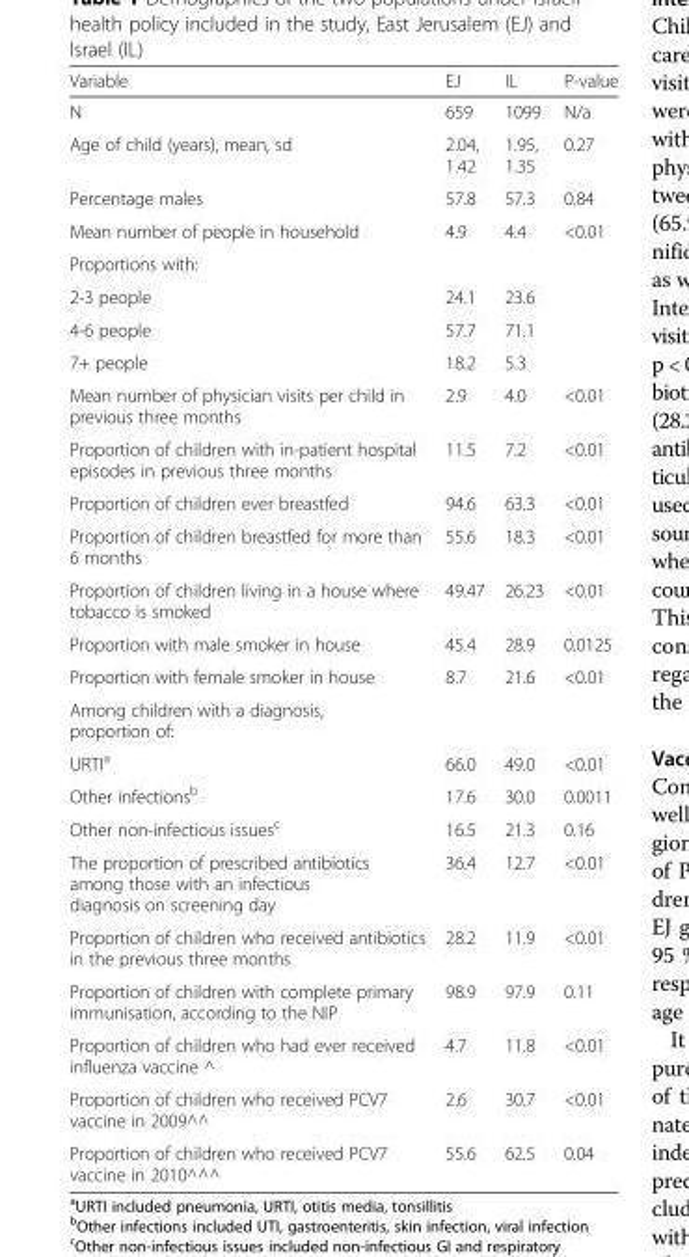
<table><thead><tr><td>Variable</td><td>EJ</td><td>IL</td><td>P-value</td></tr></thead><tbody><tr><td>N</td><td>659</td><td>1099</td><td>N/a</td></tr><tr><td>Age of child (years), mean, sd</td><td>2.04, 1.42</td><td>1.95, 1.35</td><td>0.27</td></tr><tr><td>Percentage males</td><td>57.8</td><td>57.3</td><td>0.84</td></tr><tr><td>Mean number of people in household</td><td>4.9</td><td>4.4</td><td>&lt;0.01</td></tr><tr><td colspan="4">Proportions with:</td></tr><tr><td>2-3 people</td><td>24.1</td><td>23.6</td><td></td></tr><tr><td>4-6 people</td><td>57.7</td><td>71.1</td><td></td></tr><tr><td>7+ people</td><td>18.2</td><td>5.3</td><td></td></tr><tr><td>Mean number of physician visits per child in previous three months</td><td>2.9</td><td>4.0</td><td>&lt;0.01</td></tr><tr><td>Proportion of children with in-patient hospital episodes in previous three months</td><td>11.5</td><td>7.2</td><td>&lt;0.01</td></tr><tr><td>Proportion of children ever breastfed</td><td>94.6</td><td>63.3</td><td>&lt;0.01</td></tr><tr><td>Proportion of children breastfed for more than 6 months</td><td>55.6</td><td>18.3</td><td>&lt;0.01</td></tr><tr><td>Proportion of children living in a house where tobacco is smoked</td><td>49.47</td><td>26.23</td><td>&lt;0.01</td></tr><tr><td>Proportion with male smoker in house</td><td>45.4</td><td>28.9</td><td>0.0125</td></tr><tr><td>Proportion with female smoker in house</td><td>8.7</td><td>21.6</td><td>&lt;0.01</td></tr><tr><td colspan="4">Among children with a diagnosis, proportion of:</td></tr><tr><td>URTI<sup>a</sup></td><td>66.0</td><td>49.0</td><td>&lt;0.01</td></tr><tr><td>Other infections<sup>b</sup></td><td>17.6</td><td>30.0</td><td>0.0011</td></tr><tr><td>Other non-infectious issues<sup>c</sup></td><td>16.5</td><td>21.3</td><td>0.16</td></tr><tr><td>The proportion of prescribed antibiotics among those with an infectious diagnosis on screening day</td><td>36.4</td><td>12.7</td><td>&lt;0.01</td></tr><tr><td>Proportion of children who received antibiotics in the previous three months</td><td>28.2</td><td>11.9</td><td>&lt;0.01</td></tr><tr><td>Proportion of children with complete primary immunisation, according to the NIP</td><td>98.9</td><td>97.9</td><td>0.11</td></tr><tr><td>Proportion of children who had ever received influenza vaccine ^</td><td>4.7</td><td>11.8</td><td>&lt;0.01</td></tr><tr><td>Proportion of children who received PCV7 vaccine in 2009^^</td><td>2.6</td><td>30.7</td><td>&lt;0.01</td></tr><tr><td>Proportion of children who received PCV7 vaccine in 2010^^^</td><td>55.6</td><td>62.5</td><td>0.04</td></tr></tbody></table>